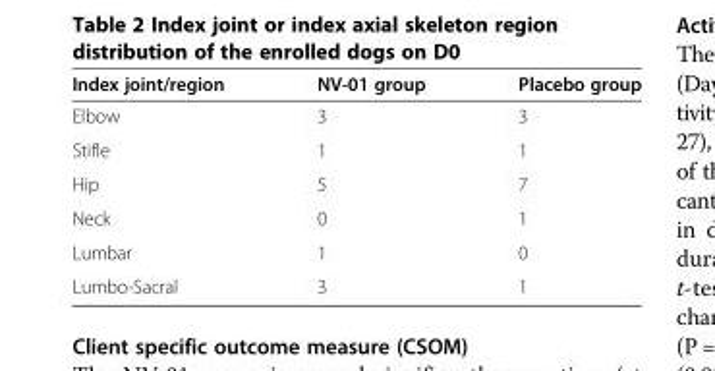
<table><thead><tr><td>Index joint/region</td><td>NV-01 group</td><td>Placebo group</td></tr></thead><tbody><tr><td>Elbow</td><td>3</td><td>3</td></tr><tr><td>Stifle</td><td>1</td><td>1</td></tr><tr><td>Hip</td><td>5</td><td>7</td></tr><tr><td>Neck</td><td>0</td><td>1</td></tr><tr><td>Lumbar</td><td>1</td><td>0</td></tr><tr><td>Lumbo-Sacral</td><td>3</td><td>1</td></tr></tbody></table>